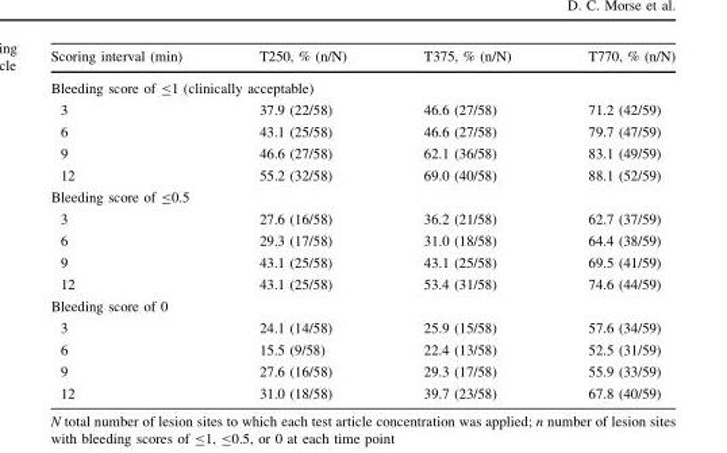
<table><thead><tr><td>Scoring interval (min)</td><td>T250, % (n/N)</td><td>T375, % (n/N)</td><td>T770, % (n/N)</td></tr></thead><tbody><tr><td colspan="4">Bleeding score of ≤1 (clinically acceptable)</td></tr><tr><td>3</td><td>37.9 (22/58)</td><td>46.6 (27/58)</td><td>71.2 (42/59)</td></tr><tr><td>6</td><td>43.1 (25/58)</td><td>46.6 (27/58)</td><td>79.7 (47/59)</td></tr><tr><td>9</td><td>46.6 (27/58)</td><td>62.1 (36/58)</td><td>83.1 (49/59)</td></tr><tr><td>12</td><td>55.2 (32/58)</td><td>69.0 (40/58)</td><td>88.1 (52/59)</td></tr><tr><td colspan="4">Bleeding score of ≤0.5</td></tr><tr><td>3</td><td>27.6 (16/58)</td><td>36.2 (21/58)</td><td>62.7 (37/59)</td></tr><tr><td>6</td><td>29.3 (17/58)</td><td>31.0 (18/58)</td><td>64.4 (38/59)</td></tr><tr><td>9</td><td>43.1 (25/58)</td><td>43.1 (25/58)</td><td>69.5 (41/59)</td></tr><tr><td>12</td><td>43.1 (25/58)</td><td>53.4 (31/58)</td><td>74.6 (44/59)</td></tr><tr><td colspan="4">Bleeding score of 0</td></tr><tr><td>3</td><td>24.1 (14/58)</td><td>25.9 (15/58)</td><td>57.6 (34/59)</td></tr><tr><td>6</td><td>15.5 (9/58)</td><td>22.4 (13/58)</td><td>52.5 (31/59)</td></tr><tr><td>9</td><td>27.6 (16/58)</td><td>29.3 (17/58)</td><td>55.9 (33/59)</td></tr><tr><td>12</td><td>31.0 (18/58)</td><td>39.7 (23/58)</td><td>67.8 (40/59)</td></tr></tbody></table>